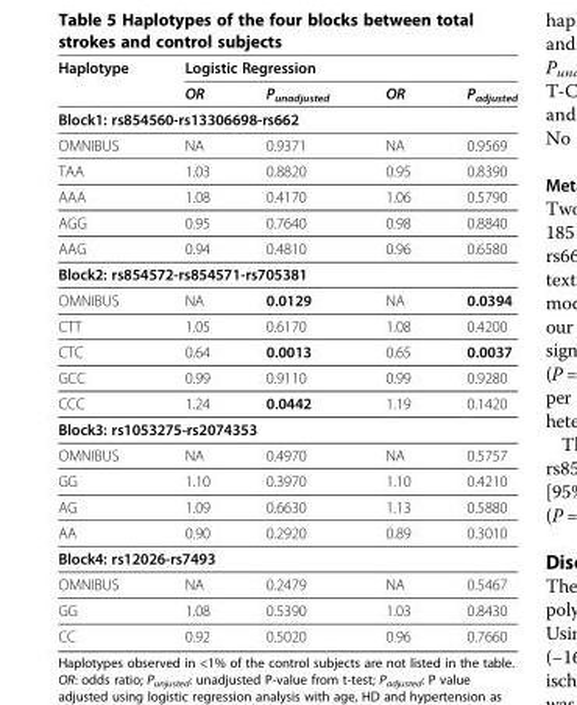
<table><thead><tr><td rowspan="2">Haplotype</td><td colspan="4">Logistic Regression</td></tr><tr><td>OR</td><td>P<sub>unadjusted</sub></td><td>OR</td><td>P<sub>adjusted</sub></td></tr></thead><tbody><tr><td colspan="5">Block1: rs854560-rs13306698-rs662</td></tr><tr><td>OMNIBUS</td><td>NA</td><td>0.9371</td><td>NA</td><td>0.9569</td></tr><tr><td>TAA</td><td>1.03</td><td>0.8820</td><td>0.95</td><td>0.8390</td></tr><tr><td>AAA</td><td>1.08</td><td>0.4170</td><td>1.06</td><td>0.5790</td></tr><tr><td>AGG</td><td>0.95</td><td>0.7640</td><td>0.98</td><td>0.8840</td></tr><tr><td>AAG</td><td>0.94</td><td>0.4810</td><td>0.96</td><td>0.6580</td></tr><tr><td colspan="5">Block2: rs854572-rs854571-rs705381</td></tr><tr><td>OMNIBUS</td><td>NA</td><td>0.0129</td><td>NA</td><td>0.0394</td></tr><tr><td>CTT</td><td>1.05</td><td>0.6170</td><td>1.08</td><td>0.4200</td></tr><tr><td>CTC</td><td>0.64</td><td>0.0013</td><td>0.65</td><td>0.0037</td></tr><tr><td>GCC</td><td>0.99</td><td>0.9110</td><td>0.99</td><td>0.9280</td></tr><tr><td>CCC</td><td>1.24</td><td>0.0442</td><td>1.19</td><td>0.1420</td></tr><tr><td colspan="5">Block3: rs1053275-rs2074353</td></tr><tr><td>OMNIBUS</td><td>NA</td><td>0.4970</td><td>NA</td><td>0.5757</td></tr><tr><td>GG</td><td>1.10</td><td>0.3970</td><td>1.10</td><td>0.4210</td></tr><tr><td>AG</td><td>1.09</td><td>0.6630</td><td>1.13</td><td>0.5880</td></tr><tr><td>AA</td><td>0.90</td><td>0.2920</td><td>0.89</td><td>0.3010</td></tr><tr><td colspan="5">Block4: rs12026-rs7493</td></tr><tr><td>OMNIBUS</td><td>NA</td><td>0.2479</td><td>NA</td><td>0.5467</td></tr><tr><td>GG</td><td>1.08</td><td>0.5390</td><td>1.03</td><td>0.8430</td></tr><tr><td>CC</td><td>0.92</td><td>0.5020</td><td>0.96</td><td>0.7660</td></tr></tbody></table>